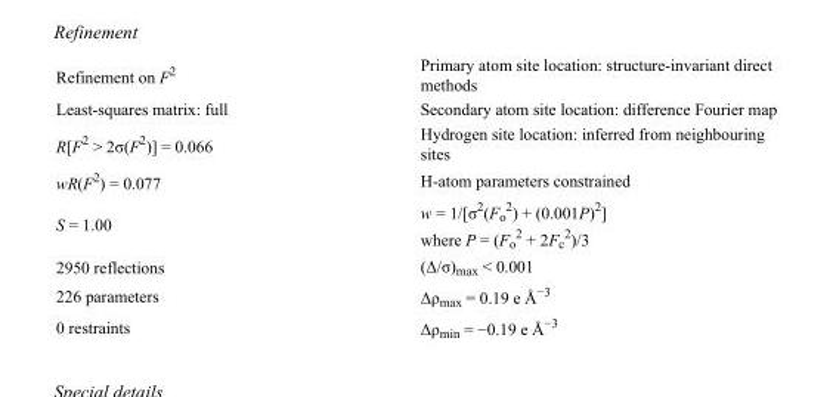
<table><tbody><tr><td>Refinement on F<sup>2</sup></td><td>Primary atom site location: structure-invariant direct methods</td></tr><tr><td>Least-squares matrix: full</td><td>Secondary atom site location: difference Fourier map</td></tr><tr><td>R[F<sup>2</sup> &gt; 2σ(F<sup>2</sup>)] = 0.066</td><td>Hydrogen site location: inferred from neighbouring sites</td></tr><tr><td>wR(F<sup>2</sup>) = 0.077</td><td>H-atom parameters constrained</td></tr><tr><td>S = 1.00</td><td>w = 1/[σ<sup>2</sup>(F<sub>o</sub> <sup>2</sup>) + (0.001P)<sup>2</sup>] where P = (F<sub>o</sub> <sup>2</sup> + 2F<sub>c</sub> <sup>2</sup>)/3</td></tr><tr><td>2950 reflections</td><td>(Δ/σ)<sub>max</sub> &lt; 0.001</td></tr><tr><td>226 parameters</td><td>Δρ<sub>max</sub> = 0.19 e Å<sup>−3</sup></td></tr><tr><td>0 restraints</td><td>Δρmin = −0.19 e Å−3</td></tr></tbody></table>